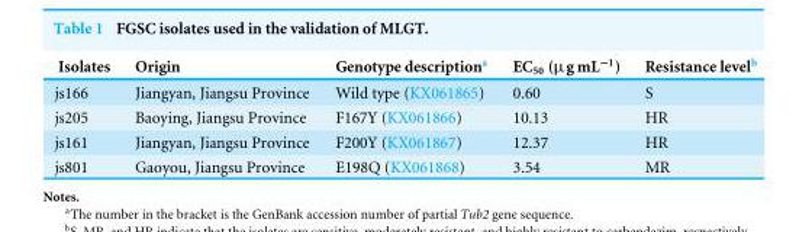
<table><thead><tr><td>Isolates</td><td>Origin</td><td>Genotype description<sup>a</sup></td><td>EC<sub>50</sub> (µg mL<sup>−1</sup>)</td><td>Resistance level<sup>b</sup></td></tr></thead><tbody><tr><td>js166</td><td>Jiangyan, Jiangsu Province</td><td>Wild type (KX061865)</td><td>0.60</td><td>S</td></tr><tr><td>js205</td><td>Baoying, Jiangsu Province</td><td>F167Y (KX061866)</td><td>10.13</td><td>HR</td></tr><tr><td>js161</td><td>Jiangyan, Jiangsu Province</td><td>F200Y (KX061867)</td><td>12.37</td><td>HR</td></tr><tr><td>js801</td><td>Gaoyou, Jiangsu Province</td><td>E198Q (KX061868)</td><td>3.54</td><td>MR</td></tr></tbody></table>